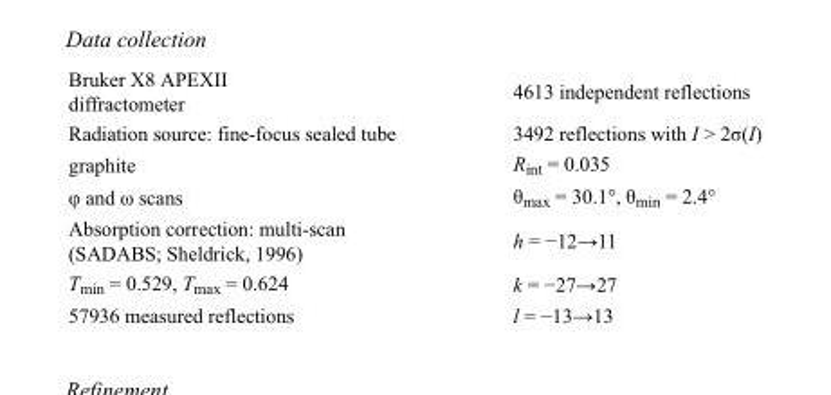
<table><tbody><tr><td>Bruker X8 APEXII diffractometer</td><td>4613 independent reflections</td></tr><tr><td>Radiation source: fine-focus sealed tube</td><td>3492 reflections with I &gt; 2σ(I)</td></tr><tr><td>graphite</td><td>R<sub>int</sub> = 0.035</td></tr><tr><td>φ and ω scans</td><td>θ<sub>max</sub> = 30.1°, θ<sub>min</sub> = 2.4°</td></tr><tr><td>Absorption correction: multi-scan (SADABS; Sheldrick, 1996)</td><td>h = −12→11</td></tr><tr><td>T<sub>min</sub> = 0.529, T<sub>max</sub> = 0.624</td><td>k = −27→27</td></tr><tr><td>57936 measured reflections</td><td>l = −13→13</td></tr></tbody></table>